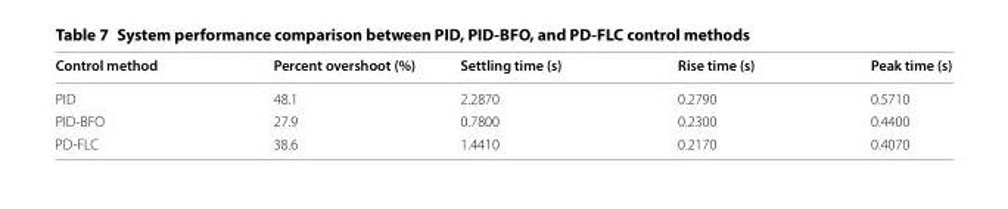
<table><thead><tr><td>Control method</td><td>Percent overshoot (%)</td><td>Settling time (s)</td><td>Rise time (s)</td><td>Peak time (s)</td></tr></thead><tbody><tr><td>PID</td><td>48.1</td><td>2.2870</td><td>0.2790</td><td>0.5710</td></tr><tr><td>PID-BFO</td><td>27.9</td><td>0.7800</td><td>0.2300</td><td>0.4400</td></tr><tr><td>PD-FLC</td><td>38.6</td><td>1.4410</td><td>0.2170</td><td>0.4070</td></tr></tbody></table>